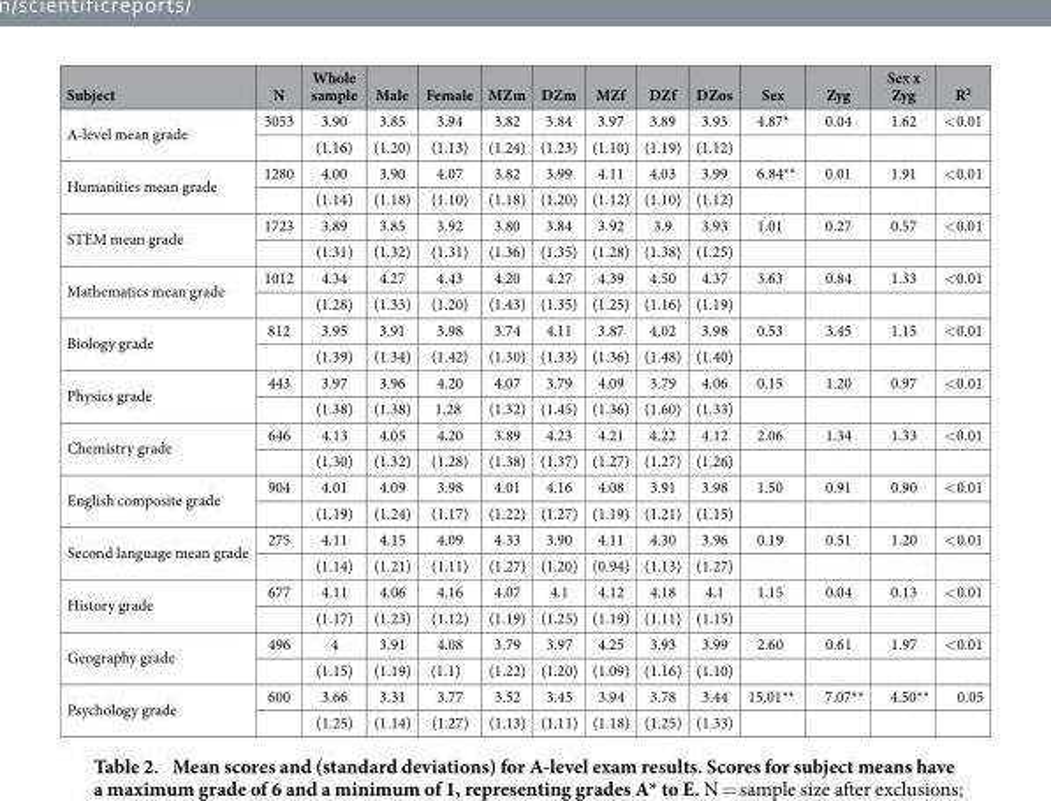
<table><thead><tr><td>Subject</td><td>N</td><td>Whole sample</td><td>Male</td><td>Female</td><td>MZm</td><td>DZm</td><td>MZf</td><td>DZf</td><td>DZos</td><td>Sex</td><td>Zyg</td><td>Sex x Zyg</td><td>R<sup>2</sup></td></tr></thead><tbody><tr><td rowspan="2">A-level mean grade</td><td>3053</td><td>3.90</td><td>3.85</td><td>3.94</td><td>3.82</td><td>3.84</td><td>3.97</td><td>3.89</td><td>3.93</td><td>4.87*</td><td>0.04</td><td>1.62</td><td>&lt; 0.01</td></tr><tr><td></td><td>(1.16)</td><td>(1.20)</td><td>(1.13)</td><td>(1.24)</td><td>(1.23)</td><td>(1.10)</td><td>(1.19)</td><td>(1.12)</td><td></td><td></td><td></td><td></td></tr><tr><td rowspan="2">Humanities mean grade</td><td>1280</td><td>4.00</td><td>3.90</td><td>4.07</td><td>3.82</td><td>3.99</td><td>4.11</td><td>4.03</td><td>3.99</td><td>6.84**</td><td>0.01</td><td>1.91</td><td>&lt; 0.01</td></tr><tr><td></td><td>(1.14)</td><td>(1.18)</td><td>(1.10)</td><td>(1.18)</td><td>(1.20)</td><td>(1.12)</td><td>(1.10)</td><td>(1.12)</td><td></td><td></td><td></td><td></td></tr><tr><td rowspan="2">STEM mean grade</td><td>1723</td><td>3.89</td><td>3.85</td><td>3.92</td><td>3.80</td><td>3.84</td><td>3.92</td><td>3.9</td><td>3.93</td><td>1.01</td><td>0.27</td><td>0.57</td><td>&lt; 0.01</td></tr><tr><td></td><td>(1.31)</td><td>(1.32)</td><td>(1.31)</td><td>(1.36)</td><td>(1.35)</td><td>(1.28)</td><td>(1.38)</td><td>(1.25)</td><td></td><td></td><td></td><td></td></tr><tr><td rowspan="2">Mathematics mean grade</td><td>1012</td><td>4.34</td><td>4.27</td><td>4.43</td><td>4.20</td><td>4.27</td><td>4.39</td><td>4.50</td><td>4.37</td><td>3.63</td><td>0.84</td><td>1.33</td><td>&lt; 0.01</td></tr><tr><td></td><td>(1.28)</td><td>(1.33)</td><td>(1.20)</td><td>(1.43)</td><td>(1.35)</td><td>(1.25)</td><td>(1.16)</td><td>(1.19)</td><td></td><td></td><td></td><td></td></tr><tr><td rowspan="2">Biology grade</td><td>812</td><td>3.95</td><td>3.91</td><td>3.98</td><td>3.74</td><td>4.11</td><td>3.87</td><td>4.02</td><td>3.98</td><td>0.53</td><td>3.45</td><td>1.15</td><td>&lt; 0.01</td></tr><tr><td></td><td>(1.39)</td><td>(1.34)</td><td>(1.42)</td><td>(1.30)</td><td>(1.33)</td><td>(1.36)</td><td>(1.48)</td><td>(1.40)</td><td></td><td></td><td></td><td></td></tr><tr><td rowspan="2">Physics grade</td><td>443</td><td>3.97</td><td>3.96</td><td>4.20</td><td>4.07</td><td>3.79</td><td>4.09</td><td>3.79</td><td>4.06</td><td>0.15</td><td>1.20</td><td>0.97</td><td>&lt; 0.01</td></tr><tr><td></td><td>(1.38)</td><td>(1.38)</td><td>1.28</td><td>(1.32)</td><td>(1.45)</td><td>(1.36)</td><td>(1.60)</td><td>(1.33)</td><td></td><td></td><td></td><td></td></tr><tr><td rowspan="2">Chemistry grade</td><td>646</td><td>4.13</td><td>4.05</td><td>4.20</td><td>3.89</td><td>4.23</td><td>4.21</td><td>4.22</td><td>4.12</td><td>2.06</td><td>1.34</td><td>1.33</td><td>&lt; 0.01</td></tr><tr><td></td><td>(1.30)</td><td>(1.32)</td><td>(1.28)</td><td>(1.38)</td><td>(1.37)</td><td>(1.27)</td><td>(1.27)</td><td>(1.26)</td><td></td><td></td><td></td><td></td></tr><tr><td rowspan="2">English composite grade</td><td>904</td><td>4.01</td><td>4.09</td><td>3.98</td><td>4.01</td><td>4.16</td><td>4.08</td><td>3.91</td><td>3.98</td><td>1.50</td><td>0.91</td><td>0.90</td><td>&lt; 0.01</td></tr><tr><td></td><td>(1.19)</td><td>(1.24)</td><td>(1.17)</td><td>(1.22)</td><td>(1.27)</td><td>(1.19)</td><td>(1.21)</td><td>(1.15)</td><td></td><td></td><td></td><td></td></tr><tr><td rowspan="2">Second language mean grade</td><td>275</td><td>4.11</td><td>4.15</td><td>4.09</td><td>4.33</td><td>3.90</td><td>4.11</td><td>4.30</td><td>3.96</td><td>0.19</td><td>0.51</td><td>1.20</td><td>&lt; 0.01</td></tr><tr><td></td><td>(1.14)</td><td>(1.21)</td><td>(1.11)</td><td>(1.27)</td><td>(1.20)</td><td>(0.94)</td><td>(1.13)</td><td>(1.27)</td><td></td><td></td><td></td><td></td></tr><tr><td rowspan="2">History grade</td><td>677</td><td>4.11</td><td>4.06</td><td>4.16</td><td>4.07</td><td>4.1</td><td>4.12</td><td>4.18</td><td>4.1</td><td>1.15</td><td>0.04</td><td>0.13</td><td>&lt; 0.01</td></tr><tr><td></td><td>(1.17)</td><td>(1.23)</td><td>(1.12)</td><td>(1.19)</td><td>(1.25)</td><td>(1.19)</td><td>(1.11)</td><td>(1.15)</td><td></td><td></td><td></td><td></td></tr><tr><td rowspan="2">Geography grade</td><td>496</td><td>4</td><td>3.91</td><td>4.08</td><td>3.79</td><td>3.97</td><td>4.25</td><td>3.93</td><td>3.99</td><td>2.60</td><td>0.61</td><td>1.97</td><td>&lt; 0.01</td></tr><tr><td></td><td>(1.15)</td><td>(1.19)</td><td>(1.1)</td><td>(1.22)</td><td>(1.20)</td><td>(1.09)</td><td>(1.16)</td><td>(1.10)</td><td></td><td></td><td></td><td></td></tr><tr><td rowspan="2">Psychology grade</td><td>600</td><td>3.66</td><td>3.31</td><td>3.77</td><td>3.52</td><td>3.45</td><td>3.94</td><td>3.78</td><td>3.44</td><td>15.01**</td><td>7.07**</td><td>4.50**</td><td>0.05</td></tr><tr><td></td><td>(1.25)</td><td>(1.14)</td><td>(1.27)</td><td>(1.13)</td><td>(1.11)</td><td>(1.18)</td><td>(1.25)</td><td>(1.33)</td><td></td><td></td><td></td><td></td></tr></tbody></table>